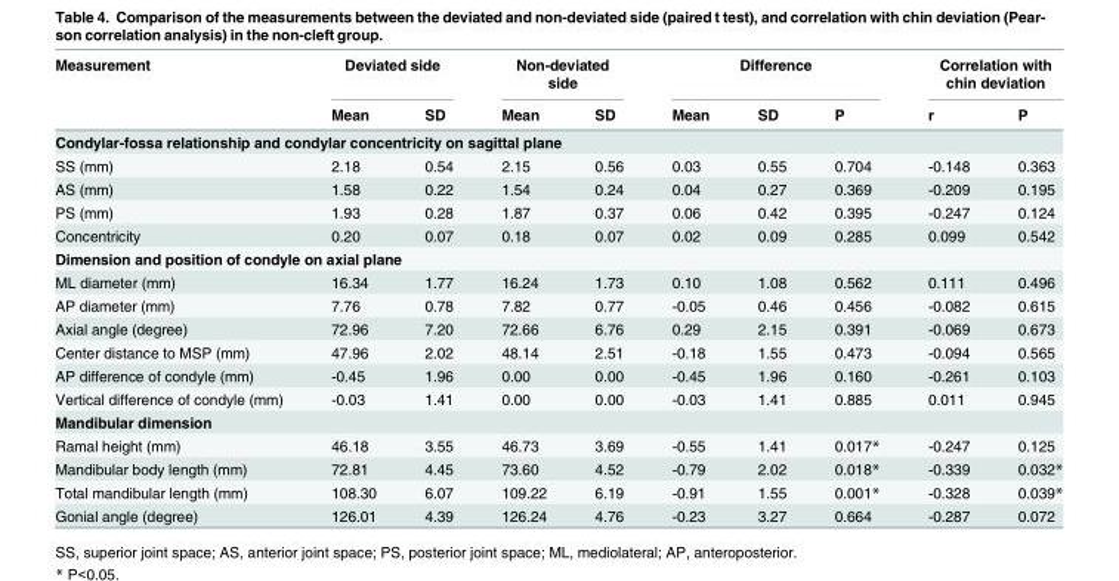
<table><thead><tr><td rowspan="2">Measurement</td><td colspan="2">Deviated side</td><td colspan="2">Non-deviated side</td><td colspan="3">Difference</td><td colspan="2">Correlation with chin deviation</td></tr><tr><td>Mean</td><td>SD</td><td>Mean</td><td>SD</td><td>Mean</td><td>SD</td><td>P</td><td>r</td><td>P</td></tr></thead><tbody><tr><td colspan="10">Condylar-fossa relationship and condylar concentricity on sagittal plane</td></tr><tr><td>SS (mm)</td><td>2.18</td><td>0.54</td><td>2.15</td><td>0.56</td><td>0.03</td><td>0.55</td><td>0.704</td><td>-0.148</td><td>0.363</td></tr><tr><td>AS (mm)</td><td>1.58</td><td>0.22</td><td>1.54</td><td>0.24</td><td>0.04</td><td>0.27</td><td>0.369</td><td>-0.209</td><td>0.195</td></tr><tr><td>PS (mm)</td><td>1.93</td><td>0.28</td><td>1.87</td><td>0.37</td><td>0.06</td><td>0.42</td><td>0.395</td><td>-0.247</td><td>0.124</td></tr><tr><td>Concentricity</td><td>0.20</td><td>0.07</td><td>0.18</td><td>0.07</td><td>0.02</td><td>0.09</td><td>0.285</td><td>0.099</td><td>0.542</td></tr><tr><td colspan="10">Dimension and position of condyle on axial plane</td></tr><tr><td>ML diameter (mm)</td><td>16.34</td><td>1.77</td><td>16.24</td><td>1.73</td><td>0.10</td><td>1.08</td><td>0.562</td><td>0.111</td><td>0.496</td></tr><tr><td>AP diameter (mm)</td><td>7.76</td><td>0.78</td><td>7.82</td><td>0.77</td><td>-0.05</td><td>0.46</td><td>0.456</td><td>-0.082</td><td>0.615</td></tr><tr><td>Axial angle (degree)</td><td>72.96</td><td>7.20</td><td>72.66</td><td>6.76</td><td>0.29</td><td>2.15</td><td>0.391</td><td>-0.069</td><td>0.673</td></tr><tr><td>Center distance to MSP (mm)</td><td>47.96</td><td>2.02</td><td>48.14</td><td>2.51</td><td>-0.18</td><td>1.55</td><td>0.473</td><td>-0.094</td><td>0.565</td></tr><tr><td>AP difference of condyle (mm)</td><td>-0.45</td><td>1.96</td><td>0.00</td><td>0.00</td><td>-0.45</td><td>1.96</td><td>0.160</td><td>-0.261</td><td>0.103</td></tr><tr><td>Vertical difference of condyle (mm)</td><td>-0.03</td><td>1.41</td><td>0.00</td><td>0.00</td><td>-0.03</td><td>1.41</td><td>0.885</td><td>0.011</td><td>0.945</td></tr><tr><td colspan="10">Mandibular dimension</td></tr><tr><td>Ramal height (mm)</td><td>46.18</td><td>3.55</td><td>46.73</td><td>3.69</td><td>-0.55</td><td>1.41</td><td>0.017*</td><td>-0.247</td><td>0.125</td></tr><tr><td>Mandibular body length (mm)</td><td>72.81</td><td>4.45</td><td>73.60</td><td>4.52</td><td>-0.79</td><td>2.02</td><td>0.018*</td><td>-0.339</td><td>0.032*</td></tr><tr><td>Total mandibular length (mm)</td><td>108.30</td><td>6.07</td><td>109.22</td><td>6.19</td><td>-0.91</td><td>1.55</td><td>0.001*</td><td>-0.328</td><td>0.039*</td></tr><tr><td>Gonial angle (degree)</td><td>126.01</td><td>4.39</td><td>126.24</td><td>4.76</td><td>-0.23</td><td>3.27</td><td>0.664</td><td>-0.287</td><td>0.072</td></tr></tbody></table>